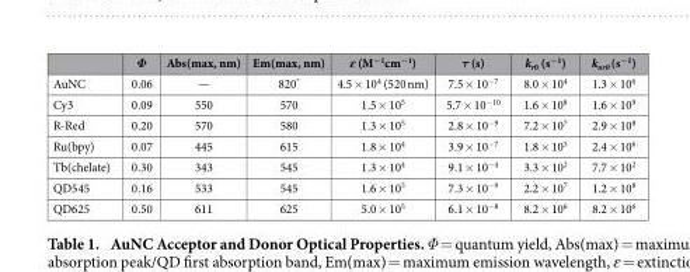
<table><thead><tr><td></td><td>Φ</td><td>Abs(max, nm)</td><td>Em(max, nm)</td><td>ɛ (M<sup>−1</sup>cm<sup>−1</sup>)</td><td>τ (s)</td><td>k<sub>r0</sub> (s<sup>−1</sup>)</td><td>k<sub>nr0</sub> (s<sup>−1</sup>)</td></tr></thead><tbody><tr><td>AuNC</td><td>0.06</td><td>—</td><td>820*</td><td>4.5 × 10<sup>4</sup> (520 nm)</td><td>7.5 × 10<sup>−7</sup></td><td>8.0 × 10<sup>4</sup></td><td>1.3 × 10<sup>6</sup></td></tr><tr><td>Cy3</td><td>0.09</td><td>550</td><td>570</td><td>1.5 × 10<sup>5</sup></td><td>5.7 × 10<sup>−10</sup></td><td>1.6 × 10<sup>8</sup></td><td>1.6 × 10<sup>9</sup></td></tr><tr><td>R-Red</td><td>0.20</td><td>570</td><td>580</td><td>1.3 × 10<sup>5</sup></td><td>2.8 × 10<sup>−9</sup></td><td>7.2 × 10<sup>7</sup></td><td>2.9 × 10<sup>8</sup></td></tr><tr><td>Ru(bpy)</td><td>0.07</td><td>445</td><td>615</td><td>1.8 × 10<sup>4</sup></td><td>3.9 × 10<sup>−7</sup></td><td>1.8 × 10<sup>5</sup></td><td>2.4 × 10<sup>6</sup></td></tr><tr><td>Tb(chelate)</td><td>0.30</td><td>343</td><td>545</td><td>1.3 × 10<sup>4</sup></td><td>9.1 × 10<sup>−4</sup></td><td>3.3 × 10<sup>2</sup></td><td>7.7 × 10<sup>2</sup></td></tr><tr><td>QD545</td><td>0.16</td><td>533</td><td>545</td><td>1.6 × 10<sup>5</sup></td><td>7.3 × 10<sup>−9</sup></td><td>2.2 × 10<sup>7</sup></td><td>1.2 × 10<sup>8</sup></td></tr><tr><td>QD625</td><td>0.50</td><td>611</td><td>625</td><td>5.0 × 10<sup>5</sup></td><td>6.1 × 10<sup>−8</sup></td><td>8.2 × 10<sup>6</sup></td><td>8.2 × 10<sup>6</sup></td></tr></tbody></table>